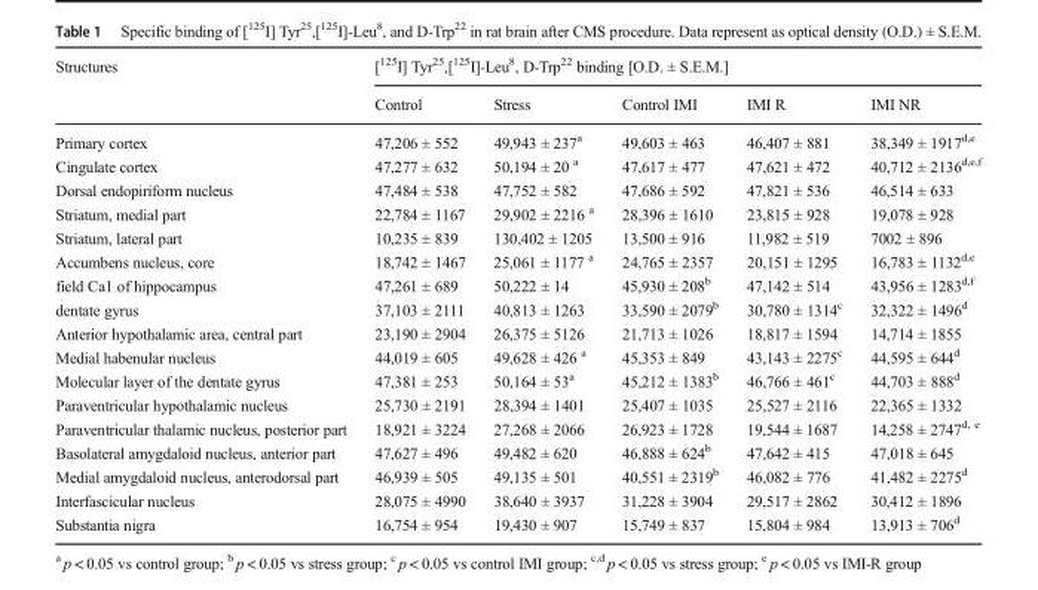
<table><thead><tr><td rowspan="2">Structures</td><td colspan="5">[<sup>125</sup>I] Tyr<sup>25</sup>,[<sup>125</sup>I]-Leu<sup>8</sup>, D-Trp<sup>22</sup> binding [O.D. ± S.E.M.]</td></tr><tr><td>Control</td><td>Stress</td><td>Control IMI</td><td>IMI R</td><td>IMI NR</td></tr></thead><tbody><tr><td>Primary cortex</td><td>47,206 ± 552</td><td>49,943 ± 237<sup>a</sup></td><td>49,603 ± 463</td><td>46,407 ± 881</td><td>38,349 ± 1917<sup>d,e</sup></td></tr><tr><td>Cingulate cortex</td><td>47,277 ± 632</td><td>50,194 ± 20 <sup>a</sup></td><td>47,617 ± 477</td><td>47,621 ± 472</td><td>40,712 ± 2136<sup>d,e,f</sup></td></tr><tr><td>Dorsal endopiriform nucleus</td><td>47,484 ± 538</td><td>47,752 ± 582</td><td>47,686 ± 592</td><td>47,821 ± 536</td><td>46,514 ± 633</td></tr><tr><td>Striatum, medial part</td><td>22,784 ± 1167</td><td>29,902 ± 2216 <sup>a</sup></td><td>28,396 ± 1610</td><td>23,815 ± 928</td><td>19,078 ± 928</td></tr><tr><td>Striatum, lateral part</td><td>10,235 ± 839</td><td>130,402 ± 1205</td><td>13,500 ± 916</td><td>11,982 ± 519</td><td>7002 ± 896</td></tr><tr><td>Accumbens nucleus, core</td><td>18,742 ± 1467</td><td>25,061 ± 1177 <sup>a</sup></td><td>24,765 ± 2357</td><td>20,151 ± 1295</td><td>16,783 ± 1132<sup>d,e</sup></td></tr><tr><td>field Ca1 of hippocampus</td><td>47,261 ± 689</td><td>50,222 ± 14</td><td>45,930 ± 208<sup>b</sup></td><td>47,142 ± 514</td><td>43,956 ± 1283<sup>d,f</sup></td></tr><tr><td>dentate gyrus</td><td>37,103 ± 2111</td><td>40,813 ± 1263</td><td>33,590 ± 2079<sup>b</sup></td><td>30,780 ± 1314<sup>c</sup></td><td>32,322 ± 1496<sup>d</sup></td></tr><tr><td>Anterior hypothalamic area, central part</td><td>23,190 ± 2904</td><td>26,375 ± 5126</td><td>21,713 ± 1026</td><td>18,817 ± 1594</td><td>14,714 ± 1855</td></tr><tr><td>Medial habenular nucleus</td><td>44,019 ± 605</td><td>49,628 ± 426 <sup>a</sup></td><td>45,353 ± 849</td><td>43,143 ± 2275<sup>c</sup></td><td>44,595 ± 644<sup>d</sup></td></tr><tr><td>Molecular layer of the dentate gyrus</td><td>47,381 ± 253</td><td>50,164 ± 53<sup>a</sup></td><td>45,212 ± 1383<sup>b</sup></td><td>46,766 ± 461<sup>c</sup></td><td>44,703 ± 888<sup>d</sup></td></tr><tr><td>Paraventricular hypothalamic nucleus</td><td>25,730 ± 2191</td><td>28,394 ± 1401</td><td>25,407 ± 1035</td><td>25,527 ± 2116</td><td>22,365 ± 1332</td></tr><tr><td>Paraventricular thalamic nucleus, posterior part</td><td>18,921 ± 3224</td><td>27,268 ± 2066</td><td>26,923 ± 1728</td><td>19,544 ± 1687</td><td>14,258 ± 2747<sup>d, e</sup></td></tr><tr><td>Basolateral amygdaloid nucleus, anterior part</td><td>47,627 ± 496</td><td>49,482 ± 620</td><td>46,888 ± 624<sup>b</sup></td><td>47,642 ± 415</td><td>47,018 ± 645</td></tr><tr><td>Medial amygdaloid nucleus, anterodorsal part</td><td>46,939 ± 505</td><td>49,135 ± 501</td><td>40,551 ± 2319<sup>b</sup></td><td>46,082 ± 776</td><td>41,482 ± 2275<sup>d</sup></td></tr><tr><td>Interfascicular nucleus</td><td>28,075 ± 4990</td><td>38,640 ± 3937</td><td>31,228 ± 3904</td><td>29,517 ± 2862</td><td>30,412 ± 1896</td></tr><tr><td>Substantia nigra</td><td>16,754 ± 954</td><td>19,430 ± 907</td><td>15,749 ± 837</td><td>15,804 ± 984</td><td>13,913 ± 706<sup>d</sup></td></tr></tbody></table>